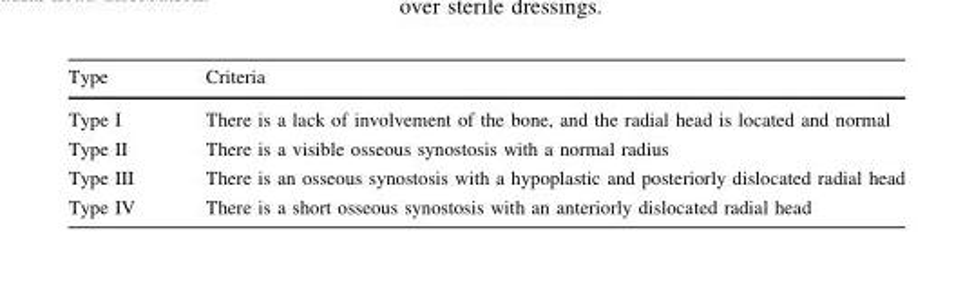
<table><thead><tr><td>Type</td><td>Criteria</td></tr></thead><tbody><tr><td>Type I</td><td>There is a lack of involvement of the bone, and the radial head is located and normal</td></tr><tr><td>Type II</td><td>There is a visible osseous synostosis with a normal radius</td></tr><tr><td>Type III</td><td>There is an osseous synostosis with a hypoplastic and posteriorly dislocated radial head</td></tr><tr><td>Type IV</td><td>There is a short osseous synostosis with an anteriorly dislocated radial head</td></tr></tbody></table>